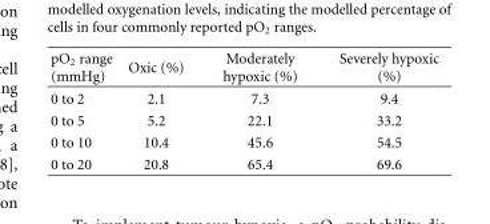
<table><thead><tr><td>pO<sub>2</sub> range (mmHg)</td><td>Oxic (%)</td><td>Moderately hypoxic (%)</td><td>Severely hypoxic (%)</td></tr></thead><tbody><tr><td>0 to 2</td><td>2.1</td><td>7.3</td><td>9.4</td></tr><tr><td>0 to 5</td><td>5.2</td><td>22.1</td><td>33.2</td></tr><tr><td>0 to 10</td><td>10.4</td><td>45.6</td><td>54.5</td></tr><tr><td>0 to 20</td><td>20.8</td><td>65.4</td><td>69.6</td></tr></tbody></table>